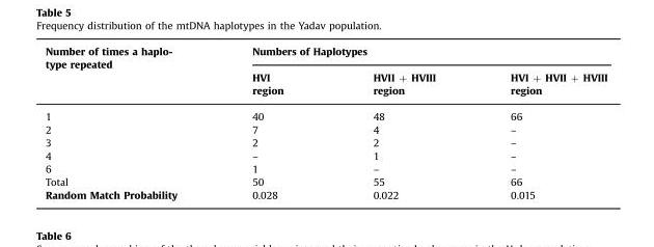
<table><thead><tr><td rowspan="2">Number of times a haplo- type repeated</td><td colspan="3">Numbers of Haplotypes</td></tr><tr><td>HVI region</td><td>HVII + HVIII region</td><td>HVI + HVII + HVIII region</td></tr></thead><tbody><tr><td>1</td><td>40</td><td>48</td><td>66</td></tr><tr><td>2</td><td>7</td><td>4</td><td>–</td></tr><tr><td>3</td><td>2</td><td>2</td><td>–</td></tr><tr><td>4</td><td>–</td><td>1</td><td>–</td></tr><tr><td>6</td><td>1</td><td>–</td><td>–</td></tr><tr><td>Total</td><td>50</td><td>55</td><td>66</td></tr><tr><td>Random Match Probability</td><td>0.028</td><td>0.022</td><td>0.015</td></tr></tbody></table>